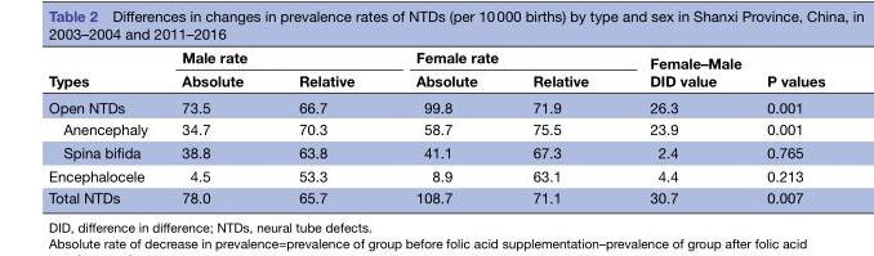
<table><thead><tr><td rowspan="2">Types</td><td colspan="2">Male rate</td><td colspan="2">Female rate</td><td rowspan="2">Female–Male DID value</td><td rowspan="2">P values</td></tr><tr><td>Absolute</td><td>Relative</td><td>Absolute</td><td>Relative</td></tr></thead><tbody><tr><td>Open NTDs</td><td>73.5</td><td>66.7</td><td>99.8</td><td>71.9</td><td>26.3</td><td>0.001</td></tr><tr><td>Anencephaly</td><td>34.7</td><td>70.3</td><td>58.7</td><td>75.5</td><td>23.9</td><td>0.001</td></tr><tr><td>Spina bifida</td><td>38.8</td><td>63.8</td><td>41.1</td><td>67.3</td><td>2.4</td><td>0.765</td></tr><tr><td>Encephalocele</td><td>4.5</td><td>53.3</td><td>8.9</td><td>63.1</td><td>4.4</td><td>0.213</td></tr><tr><td>Total NTDs</td><td>78.0</td><td>65.7</td><td>108.7</td><td>71.1</td><td>30.7</td><td>0.007</td></tr></tbody></table>